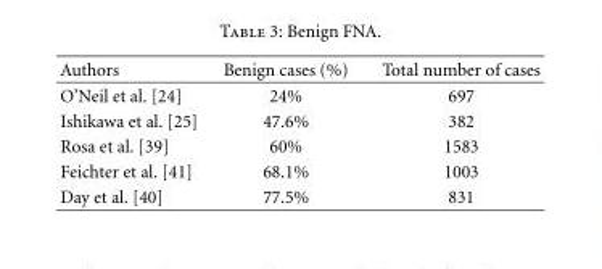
<table><thead><tr><td>Authors</td><td>Benign cases (%)</td><td>Total number of cases</td></tr></thead><tbody><tr><td>O’Neil et al. [24]</td><td>24%</td><td>697</td></tr><tr><td>Ishikawa et al. [25]</td><td>47.6%</td><td>382</td></tr><tr><td>Rosa et al. [39]</td><td>60%</td><td>1583</td></tr><tr><td>Feichter et al. [41]</td><td>68.1%</td><td>1003</td></tr><tr><td>Day et al. [40]</td><td>77.5%</td><td>831</td></tr></tbody></table>